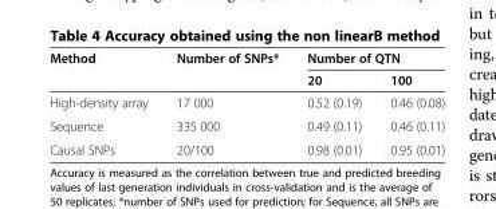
<table><thead><tr><td rowspan="2">Method</td><td rowspan="2">Number of SNPs*</td><td colspan="2">Number of QTN</td></tr><tr><td>20</td><td>100</td></tr></thead><tbody><tr><td>High-density array</td><td>17 000</td><td>0.52 (0.19)</td><td>0.46 (0.08)</td></tr><tr><td>Sequence</td><td>335 000</td><td>0.49 (0.11)</td><td>0.46 (0.11)</td></tr><tr><td>Causal SNPs</td><td>20/100</td><td>0.98 (0.01)</td><td>0.95 (0.01)</td></tr></tbody></table>